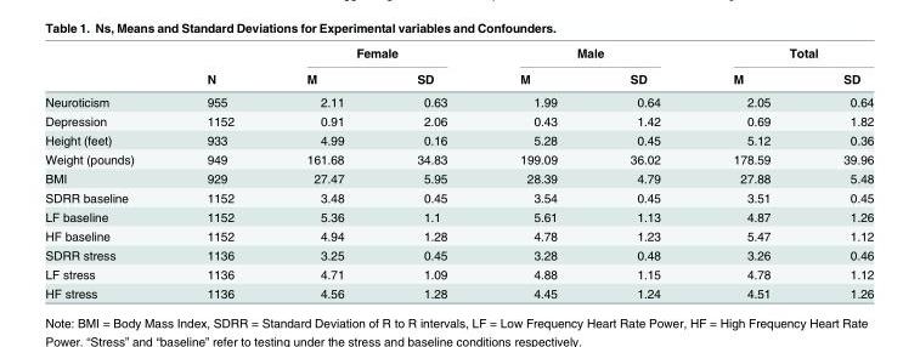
<table><thead><tr><td rowspan="2"></td><td rowspan="2">N</td><td colspan="2">Female</td><td colspan="2">Male</td><td colspan="2">Total</td></tr><tr><td>M</td><td>SD</td><td>M</td><td>SD</td><td>M</td><td>SD</td></tr></thead><tbody><tr><td>Neuroticism</td><td>955</td><td>2.11</td><td>0.63</td><td>1.99</td><td>0.64</td><td>2.05</td><td>0.64</td></tr><tr><td>Depression</td><td>1152</td><td>0.91</td><td>2.06</td><td>0.43</td><td>1.42</td><td>0.69</td><td>1.82</td></tr><tr><td>Height (feet)</td><td>933</td><td>4.99</td><td>0.16</td><td>5.28</td><td>0.45</td><td>5.12</td><td>0.36</td></tr><tr><td>Weight (pounds)</td><td>949</td><td>161.68</td><td>34.83</td><td>199.09</td><td>36.02</td><td>178.59</td><td>39.96</td></tr><tr><td>BMI</td><td>929</td><td>27.47</td><td>5.95</td><td>28.39</td><td>4.79</td><td>27.88</td><td>5.48</td></tr><tr><td>SDRR baseline</td><td>1152</td><td>3.48</td><td>0.45</td><td>3.54</td><td>0.45</td><td>3.51</td><td>0.45</td></tr><tr><td>LF baseline</td><td>1152</td><td>5.36</td><td>1.1</td><td>5.61</td><td>1.13</td><td>4.87</td><td>1.26</td></tr><tr><td>HF baseline</td><td>1152</td><td>4.94</td><td>1.28</td><td>4.78</td><td>1.23</td><td>5.47</td><td>1.12</td></tr><tr><td>SDRR stress</td><td>1136</td><td>3.25</td><td>0.45</td><td>3.28</td><td>0.48</td><td>3.26</td><td>0.46</td></tr><tr><td>LF stress</td><td>1136</td><td>4.71</td><td>1.09</td><td>4.88</td><td>1.15</td><td>4.78</td><td>1.12</td></tr><tr><td>HF stress</td><td>1136</td><td>4.56</td><td>1.28</td><td>4.45</td><td>1.24</td><td>4.51</td><td>1.26</td></tr></tbody></table>